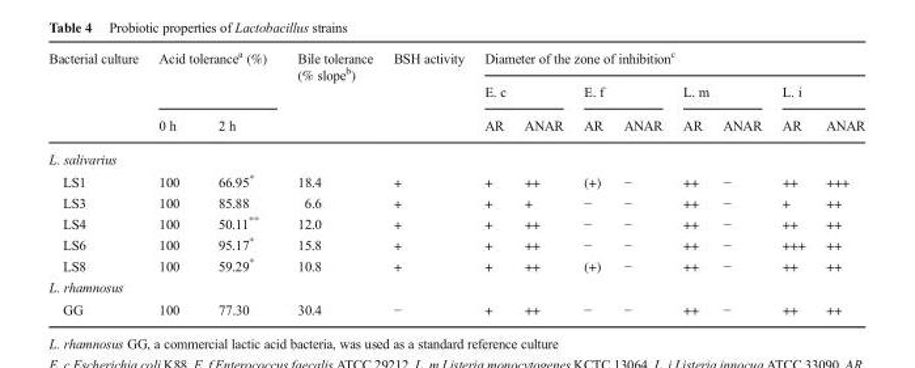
<table><thead><tr><td rowspan="3">Bacterial culture</td><td rowspan="2" colspan="2">Acid tolerance<sup>a</sup> (%)</td><td rowspan="3">Bile tolerance (% slope<sup>b</sup>)</td><td rowspan="3">BSH activity</td><td colspan="8">Diameter of the zone of inhibition<sup>c</sup></td></tr><tr><td colspan="2">E. c</td><td colspan="2">E. f</td><td colspan="2">L. m</td><td colspan="2">L. i</td></tr><tr><td>0 h</td><td>2 h</td><td>AR</td><td>ANAR</td><td>AR</td><td>ANAR</td><td>AR</td><td>ANAR</td><td>AR</td><td>ANAR</td></tr></thead><tbody><tr><td colspan="13">L. salivarius</td></tr><tr><td>LS1</td><td>100</td><td>66.95*</td><td>18.4</td><td>+</td><td>+</td><td>++</td><td>(+)</td><td>−</td><td>++</td><td>−</td><td>++</td><td>+++</td></tr><tr><td>LS3</td><td>100</td><td>85.88</td><td>6.6</td><td>+</td><td>+</td><td>+</td><td>−</td><td>−</td><td>++</td><td>−</td><td>+</td><td>++</td></tr><tr><td>LS4</td><td>100</td><td>50.11**</td><td>12.0</td><td>+</td><td>+</td><td>++</td><td>−</td><td>−</td><td>++</td><td>−</td><td>++</td><td>++</td></tr><tr><td>LS6</td><td>100</td><td>95.17*</td><td>15.8</td><td>+</td><td>+</td><td>++</td><td>−</td><td>−</td><td>++</td><td>−</td><td>+++</td><td>++</td></tr><tr><td>LS8</td><td>100</td><td>59.29*</td><td>10.8</td><td>+</td><td>+</td><td>++</td><td>(+)</td><td>−</td><td>++</td><td>−</td><td>++</td><td>++</td></tr><tr><td colspan="13">L. rhamnosus</td></tr><tr><td>GG</td><td>100</td><td>77.30</td><td>30.4</td><td>−</td><td>+</td><td>++</td><td>−</td><td>−</td><td>++</td><td>−</td><td>++</td><td>++</td></tr></tbody></table>